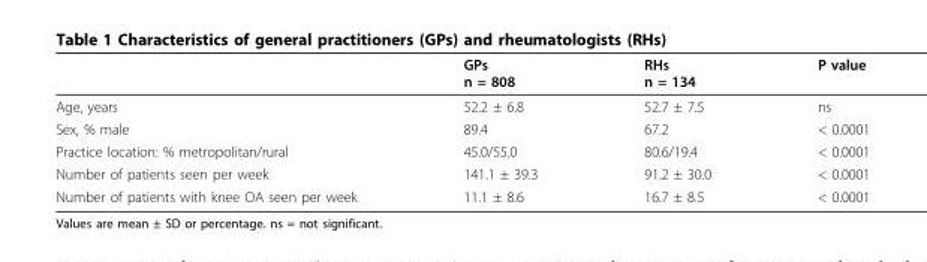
<table><thead><tr><td></td><td>GPs n = 808</td><td>RHs n = 134</td><td>P value</td></tr></thead><tbody><tr><td>Age, years</td><td>52.2 ± 6.8</td><td>52.7 ± 7.5</td><td>ns</td></tr><tr><td>Sex, % male</td><td>89.4</td><td>67.2</td><td>&lt; 0.0001</td></tr><tr><td>Practice location: % metropolitan/rural</td><td>45.0/55.0</td><td>80.6/19.4</td><td>&lt; 0.0001</td></tr><tr><td>Number of patients seen per week</td><td>141.1 ± 39.3</td><td>91.2 ± 30.0</td><td>&lt; 0.0001</td></tr><tr><td>Number of patients with knee OA seen per week</td><td>11.1 ± 8.6</td><td>16.7 ± 8.5</td><td>&lt; 0.0001</td></tr></tbody></table>